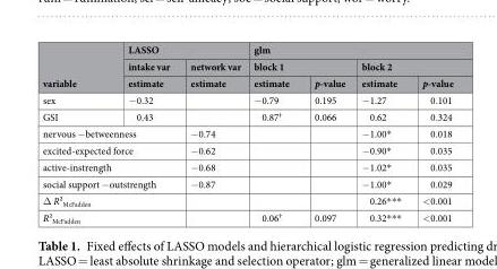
<table><thead><tr><td rowspan="3">variable</td><td colspan="2">LASSO</td><td colspan="4">glm</td></tr><tr><td rowspan="2">intake var estimate</td><td rowspan="2">network var estimate</td><td colspan="2">block 1</td><td colspan="2">block 2</td></tr><tr><td>estimate</td><td>p-value</td><td>estimate</td><td>p-value</td></tr></thead><tbody><tr><td>sex</td><td>−0.32</td><td></td><td>−0.79</td><td>0.195</td><td>−1.27</td><td>0.101</td></tr><tr><td>GSI</td><td>0.43</td><td></td><td>0.87<sup>†</sup></td><td>0.066</td><td>0.62</td><td>0.324</td></tr><tr><td colspan="2">nervous −betweenness</td><td>−0.74</td><td></td><td></td><td>−1.00*</td><td>0.018</td></tr><tr><td colspan="2">excited-expected force</td><td>−0.62</td><td></td><td></td><td>−0.90*</td><td>0.035</td></tr><tr><td colspan="2">active-instrength</td><td>−0.68</td><td></td><td></td><td>−1.02*</td><td>0.035</td></tr><tr><td colspan="2">social support −outstrength</td><td>−0.87</td><td></td><td></td><td>−1.00*</td><td>0.029</td></tr><tr><td colspan="2">Δ R²<sub>McFadden</sub></td><td></td><td></td><td></td><td>0.26***</td><td>&lt;0.001</td></tr><tr><td colspan="2">R²<sub>McFadden</sub></td><td></td><td>0.06<sup>†</sup></td><td>0.097</td><td>0.32***</td><td>&lt;0.001</td></tr></tbody></table>